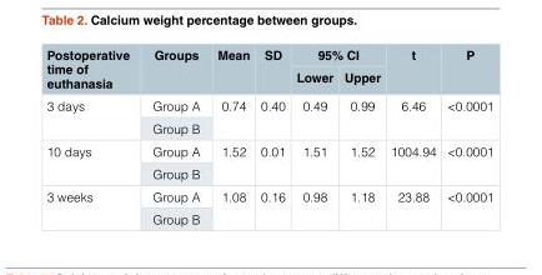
<table><thead><tr><td rowspan="2">Postoperative time of euthanasia</td><td rowspan="2">Groups</td><td rowspan="2">Mean</td><td rowspan="2">SD</td><td colspan="2">95% CI</td><td rowspan="2">t</td><td rowspan="2">P</td></tr><tr><td>Lower</td><td>Upper</td></tr></thead><tbody><tr><td rowspan="2">3 days</td><td>Group A</td><td rowspan="2">0.74</td><td rowspan="2">0.40</td><td rowspan="2">0.49</td><td rowspan="2">0.99</td><td rowspan="2">6.46</td><td rowspan="2">&lt;0.0001</td></tr><tr><td>Group B</td></tr><tr><td rowspan="2">10 days</td><td>Group A</td><td rowspan="2">1.52</td><td rowspan="2">0.01</td><td rowspan="2">1.51</td><td rowspan="2">1.52</td><td rowspan="2">1004.94</td><td rowspan="2">&lt;0.0001</td></tr><tr><td>Group B</td></tr><tr><td rowspan="2">3 weeks</td><td>Group A</td><td rowspan="2">1.08</td><td rowspan="2">0.16</td><td rowspan="2">0.98</td><td rowspan="2">1.18</td><td rowspan="2">23.88</td><td rowspan="2">&lt;0.0001</td></tr><tr><td>Group B</td></tr></tbody></table>